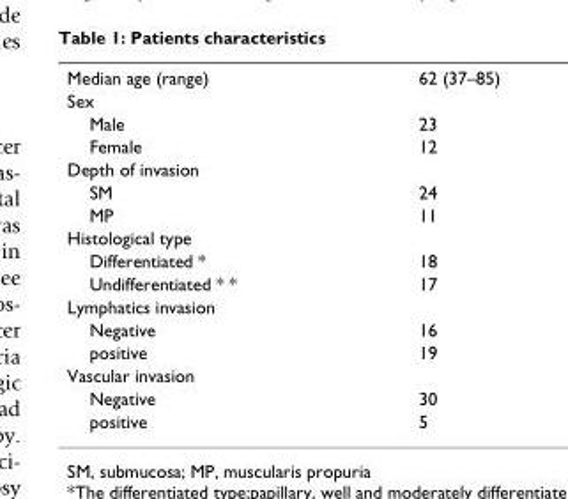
<table><tbody><tr><td>Median age (range)</td><td>62 (37–85)</td></tr><tr><td colspan="2">Sex</td></tr><tr><td>Male</td><td>23</td></tr><tr><td>Female</td><td>12</td></tr><tr><td colspan="2">Depth of invasion</td></tr><tr><td>SM</td><td>24</td></tr><tr><td>MP</td><td>11</td></tr><tr><td colspan="2">Histological type</td></tr><tr><td>Differentiated *</td><td>18</td></tr><tr><td>Undifferentiated * *</td><td>17</td></tr><tr><td colspan="2">Lymphatics invasion</td></tr><tr><td>Negative</td><td>16</td></tr><tr><td>positive</td><td>19</td></tr><tr><td colspan="2">Vascular invasion</td></tr><tr><td>Negative</td><td>30</td></tr><tr><td>positive</td><td>5</td></tr></tbody></table>